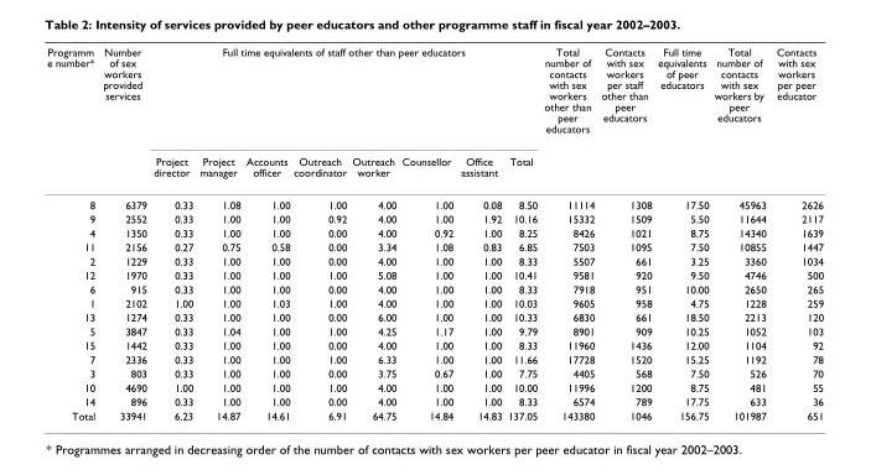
<table><thead><tr><td rowspan="2">Programm e number*</td><td rowspan="2">Number of sex workers provided services</td><td colspan="8">Full time equivalents of staff other than peer educators</td><td rowspan="2">Total number of contacts with sex workers other than peer educators</td><td rowspan="2">Contacts with sex workers per staff other than peer educators</td><td rowspan="2">Full time equivalents of peer educators</td><td rowspan="2">Total number of contacts with sex workers by peer educators</td><td rowspan="2">Contacts with sex workers per peer educator</td></tr><tr><td>Project director</td><td>Project manager</td><td>Accounts officer</td><td>Outreach coordinator</td><td>Outreach worker</td><td>Counsellor</td><td>Office assistant</td><td>Total</td></tr></thead><tbody><tr><td>8</td><td>6379</td><td>0.33</td><td>1.08</td><td>1.00</td><td>1.00</td><td>4.00</td><td>1.00</td><td>0.08</td><td>8.50</td><td>11114</td><td>1308</td><td>17.50</td><td>45963</td><td>2626</td></tr><tr><td>9</td><td>2552</td><td>0.33</td><td>1.00</td><td>1.00</td><td>0.92</td><td>4.00</td><td>1.00</td><td>1.92</td><td>10.16</td><td>15332</td><td>1509</td><td>5.50</td><td>11644</td><td>2117</td></tr><tr><td>4</td><td>1350</td><td>0.33</td><td>1.00</td><td>1.00</td><td>0.00</td><td>4.00</td><td>0.92</td><td>1.00</td><td>8.25</td><td>8426</td><td>1021</td><td>8.75</td><td>14340</td><td>1639</td></tr><tr><td>11</td><td>2156</td><td>0.27</td><td>0.75</td><td>0.58</td><td>0.00</td><td>3.34</td><td>1.08</td><td>0.83</td><td>6.85</td><td>7503</td><td>1095</td><td>7.50</td><td>10855</td><td>1447</td></tr><tr><td>2</td><td>1229</td><td>0.33</td><td>1.00</td><td>1.00</td><td>0.00</td><td>4.00</td><td>1.00</td><td>1.00</td><td>8.33</td><td>5507</td><td>661</td><td>3.25</td><td>3360</td><td>1034</td></tr><tr><td>12</td><td>1970</td><td>0.33</td><td>1.00</td><td>1.00</td><td>1.00</td><td>5.08</td><td>1.00</td><td>1.00</td><td>10.41</td><td>9581</td><td>920</td><td>9.50</td><td>4746</td><td>500</td></tr><tr><td>6</td><td>915</td><td>0.33</td><td>1.00</td><td>1.00</td><td>0.00</td><td>4.00</td><td>1.00</td><td>1.00</td><td>8.33</td><td>7918</td><td>951</td><td>10.00</td><td>2650</td><td>265</td></tr><tr><td>1</td><td>2102</td><td>1.00</td><td>1.00</td><td>1.03</td><td>1.00</td><td>4.00</td><td>1.00</td><td>1.00</td><td>10.03</td><td>9605</td><td>958</td><td>4.75</td><td>1228</td><td>259</td></tr><tr><td>13</td><td>1274</td><td>0.33</td><td>1.00</td><td>1.00</td><td>0.00</td><td>6.00</td><td>1.00</td><td>1.00</td><td>10.33</td><td>6830</td><td>661</td><td>18.50</td><td>2213</td><td>120</td></tr><tr><td>5</td><td>3847</td><td>0.33</td><td>1.04</td><td>1.00</td><td>1.00</td><td>4.25</td><td>1.17</td><td>1.00</td><td>9.79</td><td>8901</td><td>909</td><td>10.25</td><td>1052</td><td>103</td></tr><tr><td>15</td><td>1442</td><td>0.33</td><td>1.00</td><td>1.00</td><td>0.00</td><td>4.00</td><td>1.00</td><td>1.00</td><td>8.33</td><td>11960</td><td>1436</td><td>12.00</td><td>1104</td><td>92</td></tr><tr><td>7</td><td>2336</td><td>0.33</td><td>1.00</td><td>1.00</td><td>1.00</td><td>6.33</td><td>1.00</td><td>1.00</td><td>11.66</td><td>17728</td><td>1520</td><td>15.25</td><td>1192</td><td>78</td></tr><tr><td>3</td><td>803</td><td>0.33</td><td>1.00</td><td>1.00</td><td>0.00</td><td>3.75</td><td>0.67</td><td>1.00</td><td>7.75</td><td>4405</td><td>568</td><td>7.50</td><td>526</td><td>70</td></tr><tr><td>10</td><td>4690</td><td>1.00</td><td>1.00</td><td>1.00</td><td>1.00</td><td>4.00</td><td>1.00</td><td>1.00</td><td>10.00</td><td>11996</td><td>1200</td><td>8.75</td><td>481</td><td>55</td></tr><tr><td>14</td><td>896</td><td>0.33</td><td>1.00</td><td>1.00</td><td>0.00</td><td>4.00</td><td>1.00</td><td>1.00</td><td>8.33</td><td>6574</td><td>789</td><td>17.75</td><td>633</td><td>36</td></tr><tr><td>Total</td><td>33941</td><td>6.23</td><td>14.87</td><td>14.61</td><td>6.91</td><td>64.75</td><td>14.84</td><td>14.83</td><td>137.05</td><td>143380</td><td>1046</td><td>156.75</td><td>101987</td><td>651</td></tr></tbody></table>